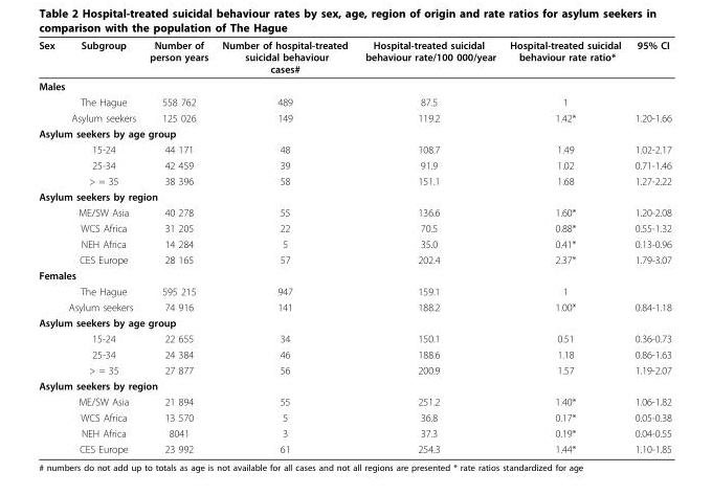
<table><thead><tr><td>Sex</td><td>Subgroup</td><td>Number of person years</td><td>Number of hospital-treated suicidal behaviour cases#</td><td>Hospital-treated suicidal behaviour rate/100 000/year</td><td>Hospital-treated suicidal behaviour rate ratio*</td><td>95% CI</td></tr></thead><tbody><tr><td colspan="7">Males</td></tr><tr><td></td><td>The Hague</td><td>558 762</td><td>489</td><td>87.5</td><td>1</td><td></td></tr><tr><td></td><td>Asylum seekers</td><td>125 026</td><td>149</td><td>119.2</td><td>1.42*</td><td>1.20-1.66</td></tr><tr><td colspan="7">Asylum seekers by age group</td></tr><tr><td></td><td>15-24</td><td>44 171</td><td>48</td><td>108.7</td><td>1.49</td><td>1.02-2.17</td></tr><tr><td></td><td>25-34</td><td>42 459</td><td>39</td><td>91.9</td><td>1.02</td><td>0.71-1.46</td></tr><tr><td></td><td>&gt; = 35</td><td>38 396</td><td>58</td><td>151.1</td><td>1.68</td><td>1.27-2.22</td></tr><tr><td colspan="7">Asylum seekers by region</td></tr><tr><td></td><td>ME/SW Asia</td><td>40 278</td><td>55</td><td>136.6</td><td>1.60*</td><td>1.20-2.08</td></tr><tr><td></td><td>WCS Africa</td><td>31 205</td><td>22</td><td>70.5</td><td>0.88*</td><td>0.55-1.32</td></tr><tr><td></td><td>NEH Africa</td><td>14 284</td><td>5</td><td>35.0</td><td>0.41*</td><td>0.13-0.96</td></tr><tr><td></td><td>CES Europe</td><td>28 165</td><td>57</td><td>202.4</td><td>2.37*</td><td>1.79-3.07</td></tr><tr><td colspan="7">Females</td></tr><tr><td></td><td>The Hague</td><td>595 215</td><td>947</td><td>159.1</td><td>1</td><td></td></tr><tr><td></td><td>Asylum seekers</td><td>74 916</td><td>141</td><td>188.2</td><td>1.00*</td><td>0.84-1.18</td></tr><tr><td colspan="7">Asylum seekers by age group</td></tr><tr><td></td><td>15-24</td><td>22 655</td><td>34</td><td>150.1</td><td>0.51</td><td>0.36-0.73</td></tr><tr><td></td><td>25-34</td><td>24 384</td><td>46</td><td>188.6</td><td>1.18</td><td>0.86-1.63</td></tr><tr><td></td><td>&gt; = 35</td><td>27 877</td><td>56</td><td>200.9</td><td>1.57</td><td>1.19-2.07</td></tr><tr><td colspan="7">Asylum seekers by region</td></tr><tr><td></td><td>ME/SW Asia</td><td>21 894</td><td>55</td><td>251.2</td><td>1.40*</td><td>1.06-1.82</td></tr><tr><td></td><td>WCS Africa</td><td>13 570</td><td>5</td><td>36.8</td><td>0.17*</td><td>0.05-0.38</td></tr><tr><td></td><td>NEH Africa</td><td>8041</td><td>3</td><td>37.3</td><td>0.19*</td><td>0.04-0.55</td></tr><tr><td></td><td>CES Europe</td><td>23 992</td><td>61</td><td>254.3</td><td>1.44*</td><td>1.10-1.85</td></tr></tbody></table>